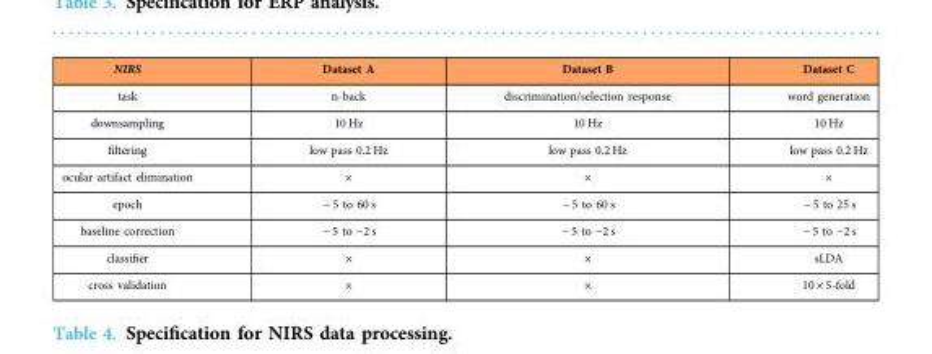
<table><thead><tr><td>NIRS</td><td>Dataset A</td><td>Dataset B</td><td>Dataset C</td></tr></thead><tbody><tr><td>task</td><td>n-back</td><td>discrimination/selection response</td><td>word generation</td></tr><tr><td>downsampling</td><td>10 Hz</td><td>10 Hz</td><td>10 Hz</td></tr><tr><td>filtering</td><td>low pass 0.2 Hz</td><td>low pass 0.2 Hz</td><td>low pass 0.2 Hz</td></tr><tr><td>ocular artifact elimination</td><td>×</td><td>×</td><td>×</td></tr><tr><td>epoch</td><td>− 5 to 60 s</td><td>− 5 to 60 s</td><td>− 5 to 25 s</td></tr><tr><td>baseline correction</td><td>− 5 to −2 s</td><td>− 5 to −2 s</td><td>− 5 to −2 s</td></tr><tr><td>classifier</td><td>×</td><td>×</td><td>sLDA</td></tr><tr><td>cross validation</td><td>×</td><td>×</td><td>10 × 5-fold</td></tr></tbody></table>